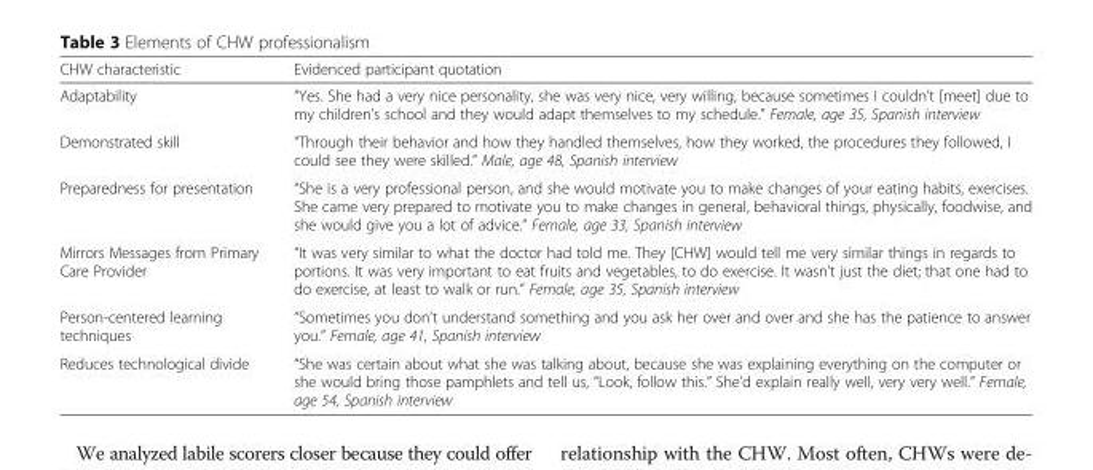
<table><thead><tr><td>CHW characteristic</td><td>Evidenced participant quotation</td></tr></thead><tbody><tr><td>Adaptability</td><td>“Yes. She had a very nice personality, she was very nice, very willing, because sometimes I couldn’t [meet] due to my children’s school and they would adapt themselves to my schedule.” Female, age 35, Spanish interview</td></tr><tr><td>Demonstrated skill</td><td>“Through their behavior and how they handled themselves, how they worked, the procedures they followed, I could see they were skilled.” Male, age 48, Spanish interview</td></tr><tr><td>Preparedness for presentation</td><td>“She is a very professional person, and she would motivate you to make changes of your eating habits, exercises. She came very prepared to motivate you to make changes in general, behavioral things, physically, foodwise, and she would give you a lot of advice.” Female, age 33, Spanish interview</td></tr><tr><td>Mirrors Messages from Primary Care Provider</td><td>“It was very similar to what the doctor had told me. They [CHW] would tell me very similar things in regards to portions. It was very important to eat fruits and vegetables, to do exercise. It wasn’t just the diet; that one had to do exercise, at least to walk or run.” Female, age 35, Spanish interview</td></tr><tr><td>Person-centered learning techniques</td><td>“Sometimes you don’t understand something and you ask her over and over and she has the patience to answer you.” Female, age 41, Spanish interview</td></tr><tr><td>Reduces technological divide</td><td>“She was certain about what she was talking about, because she was explaining everything on the computer or she would bring those pamphlets and tell us, “Look, follow this.” She’d explain really well, very very well.” Female, age 54, Spanish interview</td></tr></tbody></table>